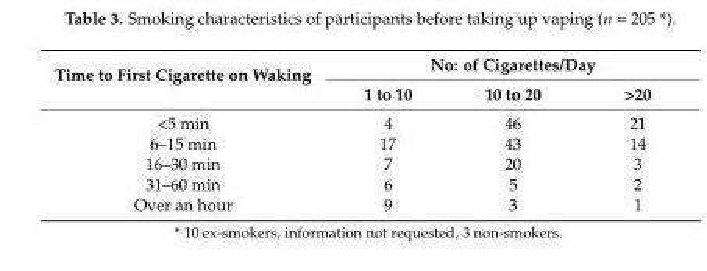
<table><thead><tr><td rowspan="2">Time to First Cigarette on Waking</td><td colspan="3">No: of Cigarettes/Day</td></tr><tr><td>1 to 10</td><td>10 to 20</td><td>&gt;20</td></tr></thead><tbody><tr><td>&lt;5 min</td><td>4</td><td>46</td><td>21</td></tr><tr><td>6–15 min</td><td>17</td><td>43</td><td>14</td></tr><tr><td>16–30 min</td><td>7</td><td>20</td><td>3</td></tr><tr><td>31–60 min</td><td>6</td><td>5</td><td>2</td></tr><tr><td>Over an hour</td><td>9</td><td>3</td><td>1</td></tr></tbody></table>